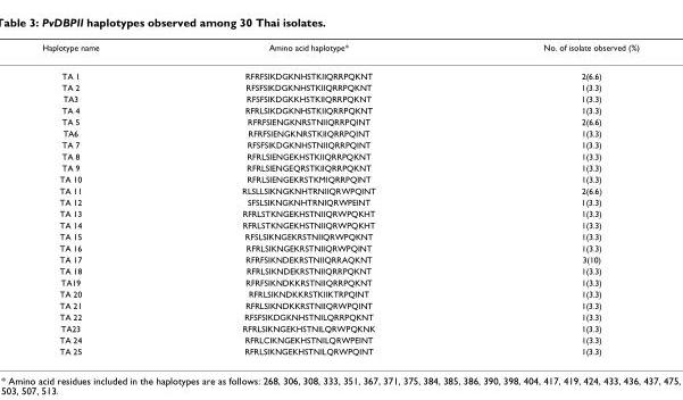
<table><thead><tr><td>Haplotype name</td><td>Amino acid haplotype*</td><td>No. of isolate observed (%)</td></tr></thead><tbody><tr><td>TA 1</td><td>RFRFSIKDGKNHSTKIIQRRPQKNT</td><td>2(6.6)</td></tr><tr><td>TA 2</td><td>RFSFSIKDGKNHSTKIIQRRPQKNT</td><td>1(3.3)</td></tr><tr><td>TA3</td><td>RFSFSIKDGKKHSTKIIQRRPQKNT</td><td>1(3.3)</td></tr><tr><td>TA 4</td><td>RFRLSIKDGKNHSTKIIQRRPQKNT</td><td>1(3.3)</td></tr><tr><td>TA 5</td><td>RFRFSIENGKNRSTNIIQRRPQINT</td><td>2(6.6)</td></tr><tr><td>TA6</td><td>RFRFSIENGKNRSTKIIQRRPQINT</td><td>1(3.3)</td></tr><tr><td>TA 7</td><td>RFSFSIKDGKNHSTNIIQRRPQINT</td><td>1(3.3)</td></tr><tr><td>TA 8</td><td>RFRLSIENGEKHSTKIIQRRPQKNT</td><td>1(3.3)</td></tr><tr><td>TA 9</td><td>RFRLSIENGEQRSTKIIQRRPQKNT</td><td>1(3.3)</td></tr><tr><td>TA 10</td><td>RFRLSIENGEKRSTKMIQRRPQINT</td><td>1(3.3)</td></tr><tr><td>TA 11</td><td>RLSLLSIKNGKNHTRNIIQRWPQINT</td><td>2(6.6)</td></tr><tr><td>TA 12</td><td>SFSLSIKNGKNHTRNIQRWPEINT</td><td>1(3.3)</td></tr><tr><td>TA 13</td><td>RFRLSTKNGEKHSTNIIQRWPQKHT</td><td>1(3.3)</td></tr><tr><td>TA 14</td><td>RFRLSTKNGEKHSTNIIQRWPQKHT</td><td>1(3.3)</td></tr><tr><td>TA 15</td><td>RFSLSIKNGEKRSTNIIQRWPQKNT</td><td>1(3.3)</td></tr><tr><td>TA 16</td><td>RFRLSIKNGEKRSTNIIQRWPQINT</td><td>1(3.3)</td></tr><tr><td>TA 17</td><td>RFRFSIKNDEKRSTNIIQRRAQKNT</td><td>3(10)</td></tr><tr><td>TA 18</td><td>RFRLSIKNDEKRSTNIIQRRPQKNT</td><td>1(3.3)</td></tr><tr><td>TA19</td><td>RFRFSIKNDKKRSTNIIQRRPQKNT</td><td>1(3.3)</td></tr><tr><td>TA 20</td><td>RFRLSIKNDKKRSTKIIKTRPQINT</td><td>1(3.3)</td></tr><tr><td>TA 21</td><td>RFRLSIKNDKKRSTNIIQRWPQINT</td><td>1(3.3)</td></tr><tr><td>TA 22</td><td>RFSFSIKDGKNHSTNILQRRPQKNT</td><td>1(3.3)</td></tr><tr><td>TA23</td><td>RFRLSIKNGEKHSTNILQRWPQKNK</td><td>1(3.3)</td></tr><tr><td>TA 24</td><td>RFRLCIKNGEKHSTNILQRWPEINT</td><td>1(3.3)</td></tr><tr><td>TA 25</td><td>RFRLSIKNGEKHSTNILQRWPQINT</td><td>1(3.3)</td></tr></tbody></table>